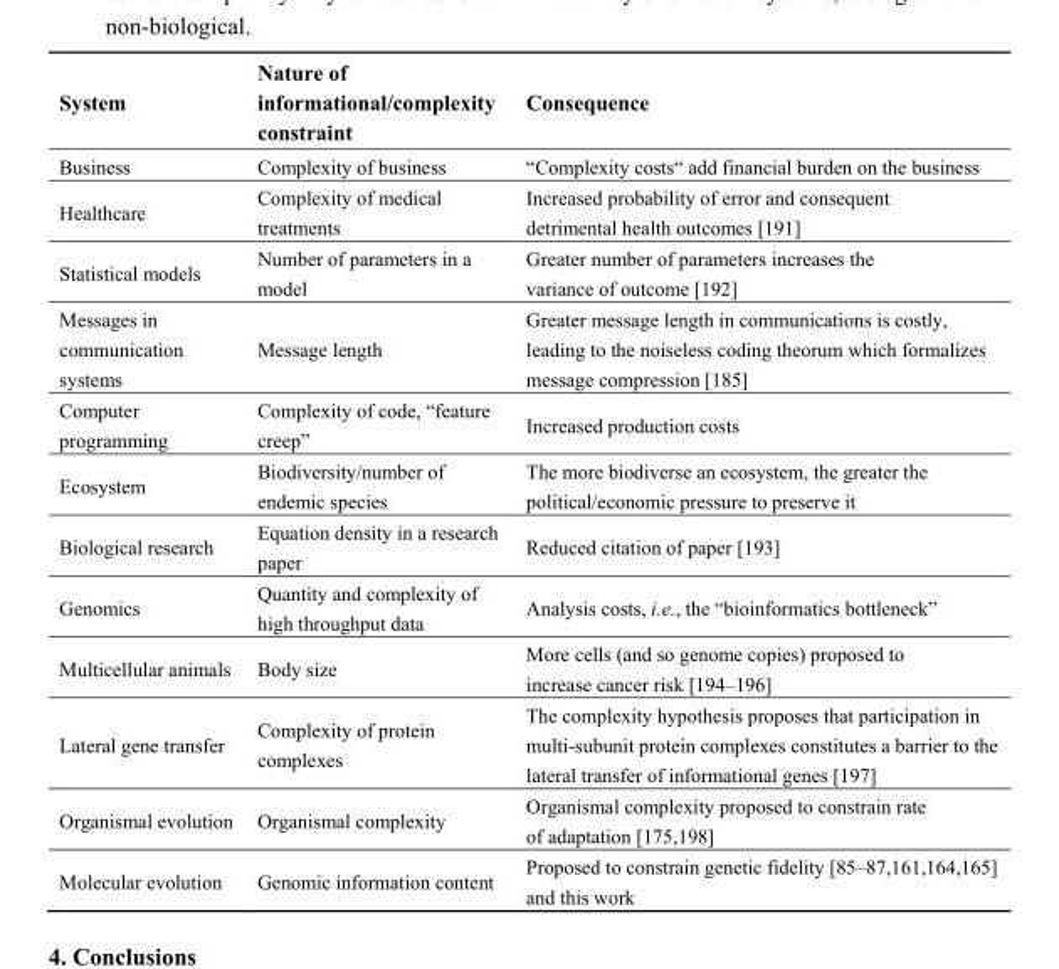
<table><thead><tr><td>System</td><td>Nature of informational/complexity constraint</td><td>Consequence</td></tr></thead><tbody><tr><td>Business</td><td>Complexity of business</td><td>“Complexity costs“ add financial burden on the business</td></tr><tr><td>Healthcare</td><td>Complexity of medical treatments</td><td>Increased probability of error and consequent detrimental health outcomes [191]</td></tr><tr><td>Statistical models</td><td>Number of parameters in a model</td><td>Greater number of parameters increases the variance of outcome [192]</td></tr><tr><td>Messages in communication systems</td><td>Message length</td><td>Greater message length in communications is costly, leading to the noiseless coding theorum which formalizes message compression [185]</td></tr><tr><td>Computer programming</td><td>Complexity of code, “feature creep”</td><td>Increased production costs</td></tr><tr><td>Ecosystem</td><td>Biodiversity/number of endemic species</td><td>The more biodiverse an ecosystem, the greater the political/economic pressure to preserve it</td></tr><tr><td>Biological research</td><td>Equation density in a research paper</td><td>Reduced citation of paper [193]</td></tr><tr><td>Genomics</td><td>Quantity and complexity of high throughput data</td><td>Analysis costs, i.e., the “bioinformatics bottleneck”</td></tr><tr><td>Multicellular animals</td><td>Body size</td><td>More cells (and so genome copies) proposed to increase cancer risk [194–196]</td></tr><tr><td>Lateral gene transfer</td><td>Complexity of protein complexes</td><td>The complexity hypothesis proposes that participation in multi-subunit protein complexes constitutes a barrier to the lateral transfer of informational genes [197]</td></tr><tr><td>Organismal evolution</td><td>Organismal complexity</td><td>Organismal complexity proposed to constrain rate of adaptation [175,198]</td></tr><tr><td>Molecular evolution</td><td>Genomic information content</td><td>Proposed to constrain genetic fidelity [85–87,161,164,165] and this work</td></tr></tbody></table>